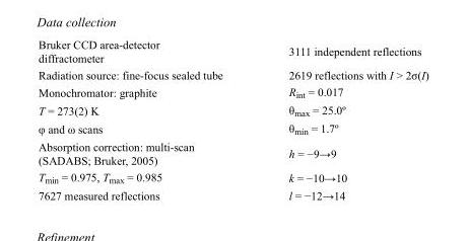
<table><tbody><tr><td>Bruker CCD area-detector diffractometer</td><td>3111 independent reflections</td></tr><tr><td>Radiation source: fine-focus sealed tube</td><td>2619 reflections with I &gt; 2σ(I)</td></tr><tr><td>Monochromator: graphite</td><td>R<sub>int</sub> = 0.017</td></tr><tr><td>T = 273(2) K</td><td>θ<sub>max</sub> = 25.0º</td></tr><tr><td>φ and ω scans</td><td>θ<sub>min</sub> = 1.7º</td></tr><tr><td>Absorption correction: multi-scan (SADABS; Bruker, 2005)</td><td>h = −9→9</td></tr><tr><td>T<sub>min</sub> = 0.975, T<sub>max</sub> = 0.985</td><td>k = −10→10</td></tr><tr><td>7627 measured reflections</td><td>l = −12→14</td></tr></tbody></table>